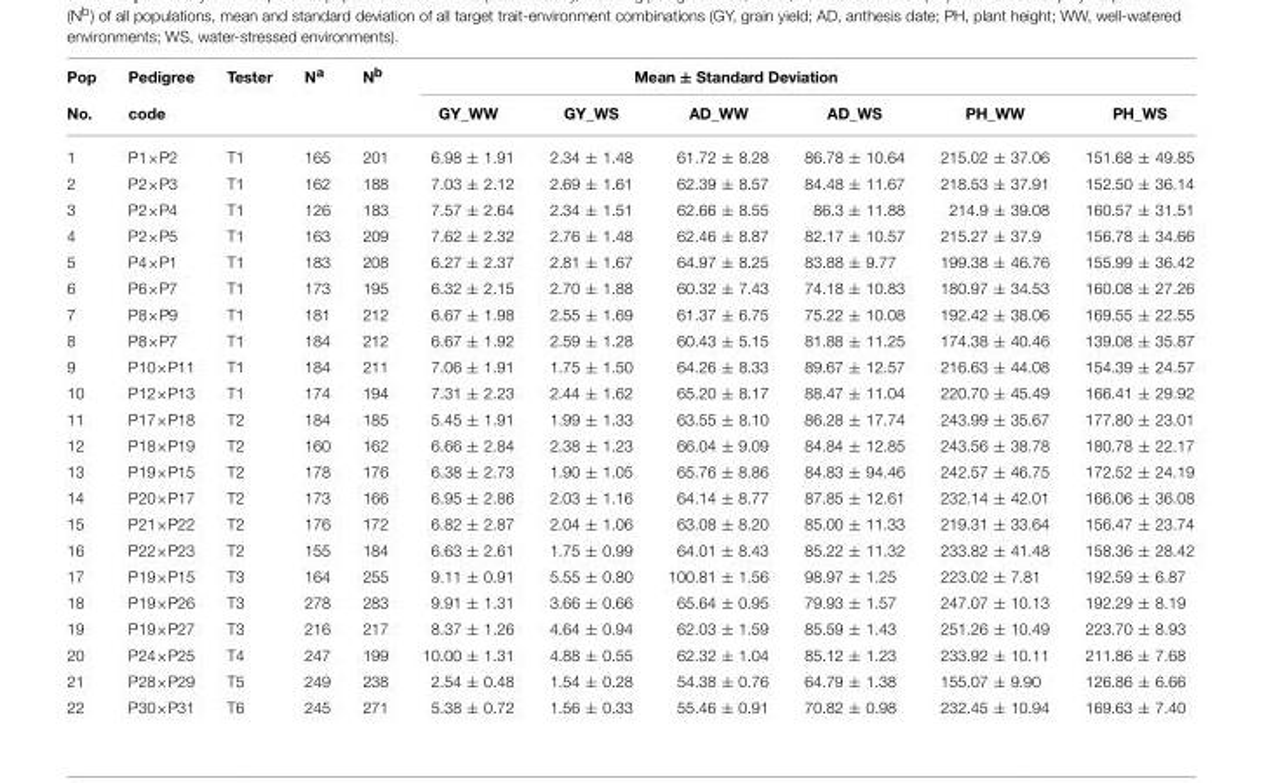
<table><thead><tr><td rowspan="2">Pop No.</td><td rowspan="2">Pedigree code</td><td rowspan="2">Tester</td><td rowspan="2">N<sup>a</sup></td><td rowspan="2">N<sup>b</sup></td><td colspan="5">Mean ± Standard Deviation</td><td rowspan="2">PH_WS</td></tr><tr><td>GY_WW</td><td>GY_WS</td><td>AD_WW</td><td>AD_WS</td><td>PH_WW</td></tr></thead><tbody><tr><td>1</td><td>P1×P2</td><td>T1</td><td>165</td><td>201</td><td>6.98 ± 1.91</td><td>2.34 ± 1.48</td><td>61.72 ± 8.28</td><td>86.78 ± 10.64</td><td>215.02 ± 37.06</td><td>151.68 ± 49.85</td></tr><tr><td>2</td><td>P2×P3</td><td>T1</td><td>162</td><td>188</td><td>7.03 ± 2.12</td><td>2.69 ± 1.61</td><td>62.39 ± 8.57</td><td>84.48 ± 11.67</td><td>218.53 ± 37.91</td><td>152.50 ± 36.14</td></tr><tr><td>3</td><td>P2×P4</td><td>T1</td><td>126</td><td>183</td><td>7.57 ± 2.64</td><td>2.34 ± 1.51</td><td>62.66 ± 8.55</td><td>86.3 ± 11.88</td><td>214.9 ± 39.08</td><td>160.57 ± 31.51</td></tr><tr><td>4</td><td>P2×P5</td><td>T1</td><td>163</td><td>209</td><td>7.62 ± 2.32</td><td>2.76 ± 1.48</td><td>62.46 ± 8.87</td><td>82.17 ± 10.57</td><td>215.27 ± 37.9</td><td>156.78 ± 34.66</td></tr><tr><td>5</td><td>P4×P1</td><td>T1</td><td>183</td><td>208</td><td>6.27 ± 2.37</td><td>2.81 ± 1.67</td><td>64.97 ± 8.25</td><td>83.88 ± 9.77</td><td>199.38 ± 46.76</td><td>155.99 ± 36.42</td></tr><tr><td>6</td><td>P6×P7</td><td>T1</td><td>173</td><td>195</td><td>6.32 ± 2.15</td><td>2.70 ± 1.88</td><td>60.32 ± 7.43</td><td>74.18 ± 10.83</td><td>180.97 ± 34.53</td><td>160.08 ± 27.26</td></tr><tr><td>7</td><td>P8×P9</td><td>T1</td><td>181</td><td>212</td><td>6.67 ± 1.98</td><td>2.55 ± 1.69</td><td>61.37 ± 6.75</td><td>75.22 ± 10.08</td><td>192.42 ± 38.06</td><td>169.55 ± 22.55</td></tr><tr><td>8</td><td>P8×P7</td><td>T1</td><td>184</td><td>212</td><td>6.67 ± 1.92</td><td>2.59 ± 1.28</td><td>60.43 ± 5.15</td><td>81.88 ± 11.25</td><td>174.38 ± 40.46</td><td>139.08 ± 35.87</td></tr><tr><td>9</td><td>P10×P11</td><td>T1</td><td>184</td><td>211</td><td>7.06 ± 1.91</td><td>1.75 ± 1.50</td><td>64.26 ± 8.33</td><td>89.67 ± 12.57</td><td>216.63 ± 44.08</td><td>154.39 ± 24.57</td></tr><tr><td>10</td><td>P12×P13</td><td>T1</td><td>174</td><td>194</td><td>7.31 ± 2.23</td><td>2.44 ± 1.62</td><td>65.20 ± 8.17</td><td>88.47 ± 11.04</td><td>220.70 ± 45.49</td><td>166.41 ± 29.92</td></tr><tr><td>11</td><td>P17×P18</td><td>T2</td><td>184</td><td>185</td><td>5.45 ± 1.91</td><td>1.99 ± 1.33</td><td>63.55 ± 8.10</td><td>86.28 ± 17.74</td><td>243.99 ± 35.67</td><td>177.80 ± 23.01</td></tr><tr><td>12</td><td>P18×P19</td><td>T2</td><td>160</td><td>162</td><td>6.66 ± 2.84</td><td>2.38 ± 1.23</td><td>66.04 ± 9.09</td><td>84.84 ± 12.85</td><td>243.56 ± 38.78</td><td>180.78 ± 22.17</td></tr><tr><td>13</td><td>P19×P15</td><td>T2</td><td>178</td><td>176</td><td>6.38 ± 2.73</td><td>1.90 ± 1.05</td><td>65.76 ± 8.86</td><td>84.83 ± 94.46</td><td>242.57 ± 46.75</td><td>172.52 ± 24.19</td></tr><tr><td>14</td><td>P20×P17</td><td>T2</td><td>173</td><td>166</td><td>6.95 ± 2.86</td><td>2.03 ± 1.16</td><td>64.14 ± 8.77</td><td>87.85 ± 12.61</td><td>232.14 ± 42.01</td><td>166.06 ± 36.08</td></tr><tr><td>15</td><td>P21×P22</td><td>T2</td><td>176</td><td>172</td><td>6.82 ± 2.87</td><td>2.04 ± 1.06</td><td>63.08 ± 8.20</td><td>85.00 ± 11.33</td><td>219.31 ± 33.64</td><td>156.47 ± 23.74</td></tr><tr><td>16</td><td>P22×P23</td><td>T2</td><td>155</td><td>184</td><td>6.63 ± 2.61</td><td>1.75 ± 0.99</td><td>64.01 ± 8.43</td><td>85.22 ± 11.32</td><td>233.82 ± 41.48</td><td>158.36 ± 28.42</td></tr><tr><td>17</td><td>P19×P15</td><td>T3</td><td>164</td><td>255</td><td>9.11 ± 0.91</td><td>5.55 ± 0.80</td><td>100.81 ± 1.56</td><td>98.97 ± 1.25</td><td>223.02 ± 7.81</td><td>192.59 ± 6.87</td></tr><tr><td>18</td><td>P19×P26</td><td>T3</td><td>278</td><td>283</td><td>9.91 ± 1.31</td><td>3.66 ± 0.66</td><td>65.64 ± 0.95</td><td>79.93 ± 1.57</td><td>247.07 ± 10.13</td><td>192.29 ± 8.19</td></tr><tr><td>19</td><td>P19×P27</td><td>T3</td><td>216</td><td>217</td><td>8.37 ± 1.26</td><td>4.64 ± 0.94</td><td>62.03 ± 1.59</td><td>85.59 ± 1.43</td><td>251.26 ± 10.49</td><td>223.70 ± 8.93</td></tr><tr><td>20</td><td>P24×P25</td><td>T4</td><td>247</td><td>199</td><td>10.00 ± 1.31</td><td>4.88 ± 0.55</td><td>62.32 ± 1.04</td><td>85.12 ± 1.23</td><td>233.92 ± 10.11</td><td>211.86 ± 7.68</td></tr><tr><td>21</td><td>P28×P29</td><td>T5</td><td>249</td><td>238</td><td>2.54 ± 0.48</td><td>1.54 ± 0.28</td><td>54.38 ± 0.76</td><td>64.79 ± 1.38</td><td>155.07 ± 9.90</td><td>126.86 ± 6.66</td></tr><tr><td>22</td><td>P30×P31</td><td>T6</td><td>245</td><td>271</td><td>5.38 ± 0.72</td><td>1.56 ± 0.33</td><td>55.46 ± 0.91</td><td>70.82 ± 0.98</td><td>232.45 ± 10.94</td><td>169.63 ± 7.40</td></tr></tbody></table>